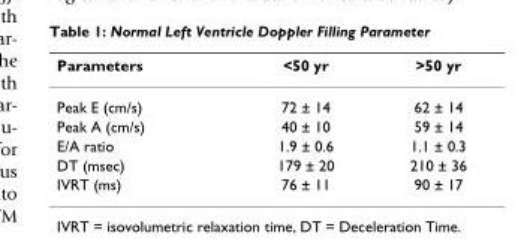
<table><thead><tr><td>Parameters</td><td>&lt;50 yr</td><td>&gt;50 yr</td></tr></thead><tbody><tr><td>Peak E (cm/s)</td><td>72 ± 14</td><td>62 ± 14</td></tr><tr><td>Peak A (cm/s)</td><td>40 ± 10</td><td>59 ± 14</td></tr><tr><td>E/A ratio</td><td>1.9 ± 0.6</td><td>1.1 ± 0.3</td></tr><tr><td>DT (msec)</td><td>179 ± 20</td><td>210 ± 36</td></tr><tr><td>IVRT (ms)</td><td>76 ± 11</td><td>90 ± 17</td></tr></tbody></table>